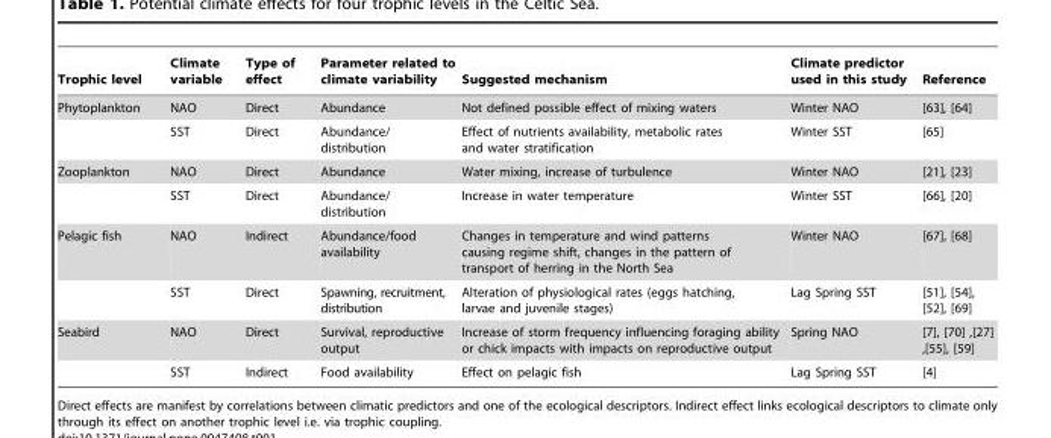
<table><thead><tr><td>Trophic level</td><td>Climate variable</td><td>Type of effect</td><td>Parameter related to climate variability</td><td>Suggested mechanism</td><td>Climate predictor used in this study</td><td>Reference</td></tr></thead><tbody><tr><td rowspan="2">Phytoplankton</td><td>NAO</td><td>Direct</td><td>Abundance</td><td>Not defined possible effect of mixing waters</td><td>Winter NAO</td><td>[63], [64]</td></tr><tr><td>SST</td><td>Direct</td><td>Abundance/ distribution</td><td>Effect of nutrients availability, metabolic rates and water stratification</td><td>Winter SST</td><td>[65]</td></tr><tr><td rowspan="2">Zooplankton</td><td>NAO</td><td>Direct</td><td>Abundance</td><td>Water mixing, increase of turbulence</td><td>Winter NAO</td><td>[21], [23]</td></tr><tr><td>SST</td><td>Direct</td><td>Abundance/ distribution</td><td>Increase in water temperature</td><td>Winter SST</td><td>[66], [20]</td></tr><tr><td rowspan="2">Pelagic fish</td><td>NAO</td><td>Indirect</td><td>Abundance/food availability</td><td>Changes in temperature and wind patterns causing regime shift, changes in the pattern of transport of herring in the North Sea</td><td>Winter NAO</td><td>[67], [68]</td></tr><tr><td>SST</td><td>Direct</td><td>Spawning, recruitment, distribution</td><td>Alteration of physiological rates (eggs hatching, larvae and juvenile stages)</td><td>Lag Spring SST</td><td>[51], [54], [52], [69]</td></tr><tr><td rowspan="2">Seabird</td><td>NAO</td><td>Direct</td><td>Survival, reproductive output</td><td>Increase of storm frequency influencing foraging ability or chick impacts with impacts on reproductive output</td><td>Spring NAO</td><td>[7], [70] ,[27] ,[55], [59]</td></tr><tr><td>SST</td><td>Indirect</td><td>Food availability</td><td>Effect on pelagic fish</td><td>Lag Spring SST</td><td>[4]</td></tr></tbody></table>